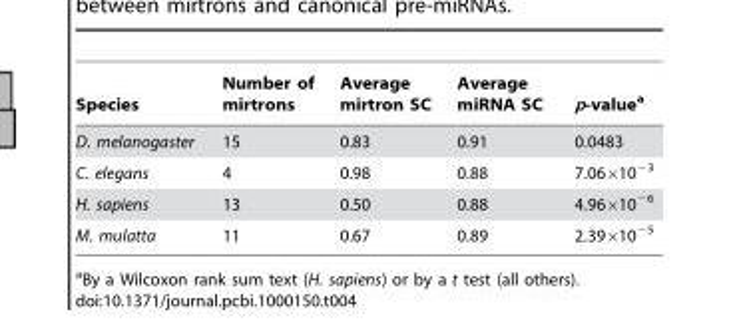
<table><thead><tr><td>Species</td><td>Number of mirtrons</td><td>Average mirtron SC</td><td>Average miRNA SC</td><td>p-value<sup>a</sup></td></tr></thead><tbody><tr><td>D. melanogaster</td><td>15</td><td>0.83</td><td>0.91</td><td>0.0483</td></tr><tr><td>C. elegans</td><td>4</td><td>0.98</td><td>0.88</td><td>7.06×10<sup>−3</sup></td></tr><tr><td>H. sapiens</td><td>13</td><td>0.50</td><td>0.88</td><td>4.96×10<sup>−6</sup></td></tr><tr><td>M. mulatta</td><td>11</td><td>0.67</td><td>0.89</td><td>2.39×10<sup>−5</sup></td></tr></tbody></table>